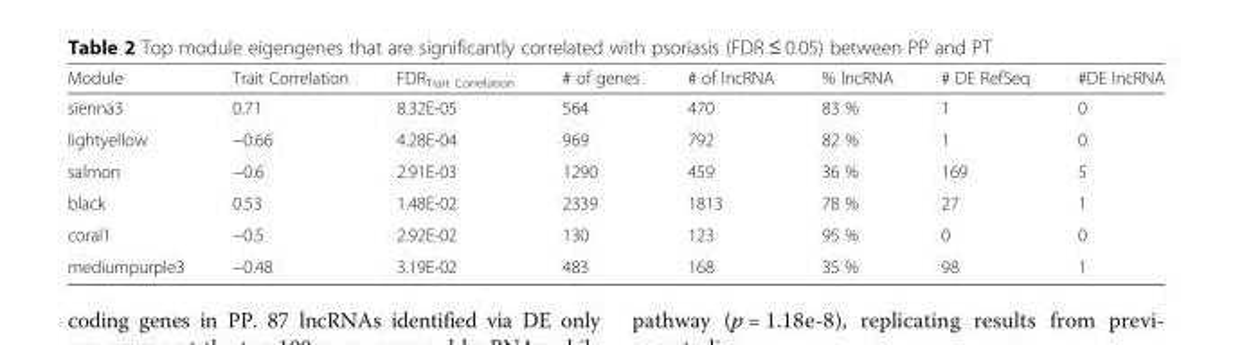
<table><thead><tr><td>Module</td><td>Trait Correlation</td><td>FDR<sub>Trait Correlation</sub></td><td># of genes</td><td># of lncRNA</td><td>% lncRNA</td><td># DE RefSeq</td><td>#DE lncRNA</td></tr></thead><tbody><tr><td>sienna3</td><td>0.71</td><td>8.32E-05</td><td>564</td><td>470</td><td>83 %</td><td>1</td><td>0</td></tr><tr><td>lightyellow</td><td>−0.66</td><td>4.28E-04</td><td>969</td><td>792</td><td>82 %</td><td>1</td><td>0</td></tr><tr><td>salmon</td><td>−0.6</td><td>2.91E-03</td><td>1290</td><td>459</td><td>36 %</td><td>169</td><td>5</td></tr><tr><td>black</td><td>0.53</td><td>1.48E-02</td><td>2339</td><td>1813</td><td>78 %</td><td>27</td><td>1</td></tr><tr><td>coral1</td><td>−0.5</td><td>2.92E-02</td><td>130</td><td>123</td><td>95 %</td><td>0</td><td>0</td></tr><tr><td>mediumpurple3</td><td>−0.48</td><td>3.19E-02</td><td>483</td><td>168</td><td>35 %</td><td>98</td><td>1</td></tr></tbody></table>